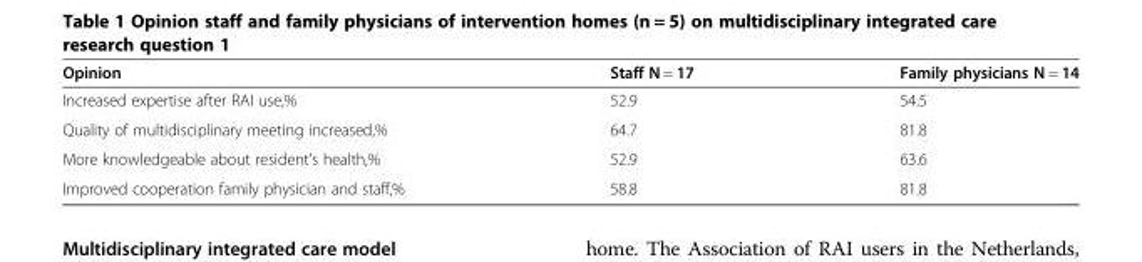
<table><thead><tr><td>Opinion</td><td>Staff N = 17</td><td>Family physicians N = 14</td></tr></thead><tbody><tr><td>Increased expertise after RAI use,%</td><td>52.9</td><td>54.5</td></tr><tr><td>Quality of multidisciplinary meeting increased,%</td><td>64.7</td><td>81.8</td></tr><tr><td>More knowledgeable about resident’s health,%</td><td>52.9</td><td>63.6</td></tr><tr><td>Improved cooperation family physician and staff,%</td><td>58.8</td><td>81.8</td></tr></tbody></table>